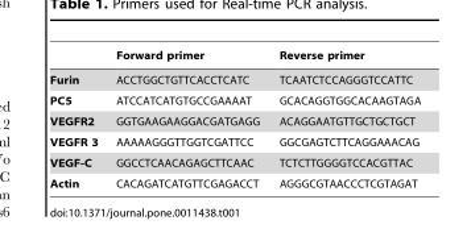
<table><thead><tr><td></td><td>Forward primer</td><td>Reverse primer</td></tr></thead><tbody><tr><td>Furin</td><td>ACCTGGCTGTTCACCTCATC</td><td>TCAATCTCCAGGGTCCATTC</td></tr><tr><td>PC5</td><td>ATCCATCATGTGCCGAAAAT</td><td>GCACAGGTGGCACAAGTAGA</td></tr><tr><td>VEGFR2</td><td>GGTGAAGAAGGACGATGAGG</td><td>ACAGGAATGTTGCTGCTGCT</td></tr><tr><td>VEGFR 3</td><td>AAAAAGGGTTGGTCGATTCC</td><td>GGCGAGTCTTCAGGAAACAG</td></tr><tr><td>VEGF-C</td><td>GGCCTCAACAGAGCTTCAAC</td><td>TCTCTTGGGGTCCACGTTAC</td></tr><tr><td>Actin</td><td>CACAGATCATGTTCGAGACCT</td><td>AGGGCGTAACCCTCGTAGAT</td></tr></tbody></table>